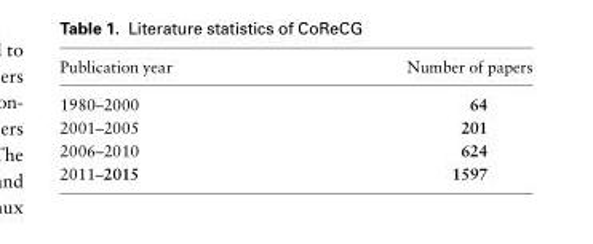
<table><thead><tr><td>Publication year</td><td>Number of papers</td></tr></thead><tbody><tr><td>1980–2000</td><td>64</td></tr><tr><td>2001–2005</td><td>201</td></tr><tr><td>2006–2010</td><td>624</td></tr><tr><td>2011–2015</td><td>1597</td></tr></tbody></table>